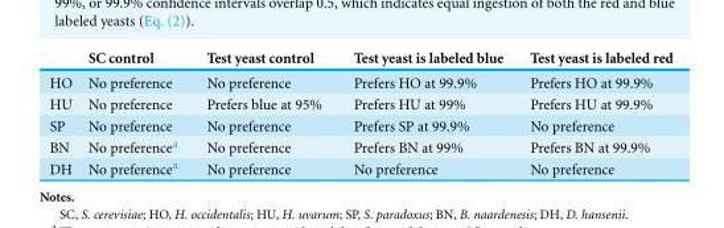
<table><thead><tr><td></td><td>SC control</td><td>Test yeast control</td><td>Test yeast is labeled blue</td><td>Test yeast is labeled red</td></tr></thead><tbody><tr><td>HO</td><td>No preference</td><td>No preference</td><td>Prefers HO at 99.9%</td><td>Prefers HO at 99.9%</td></tr><tr><td>HU</td><td>No preference</td><td>Prefers blue at 95%</td><td>Prefers HU at 99%</td><td>Prefers HU at 99.9%</td></tr><tr><td>SP</td><td>No preference</td><td>No preference</td><td>Prefers SP at 99.9%</td><td>No preference</td></tr><tr><td>BN</td><td>No preference<sup>a</sup></td><td>No preference</td><td>Prefers BN at 99%</td><td>Prefers BN at 99.9%</td></tr><tr><td>DH</td><td>No preference<sup>a</sup></td><td>No preference</td><td>No preference</td><td>No preference</td></tr></tbody></table>